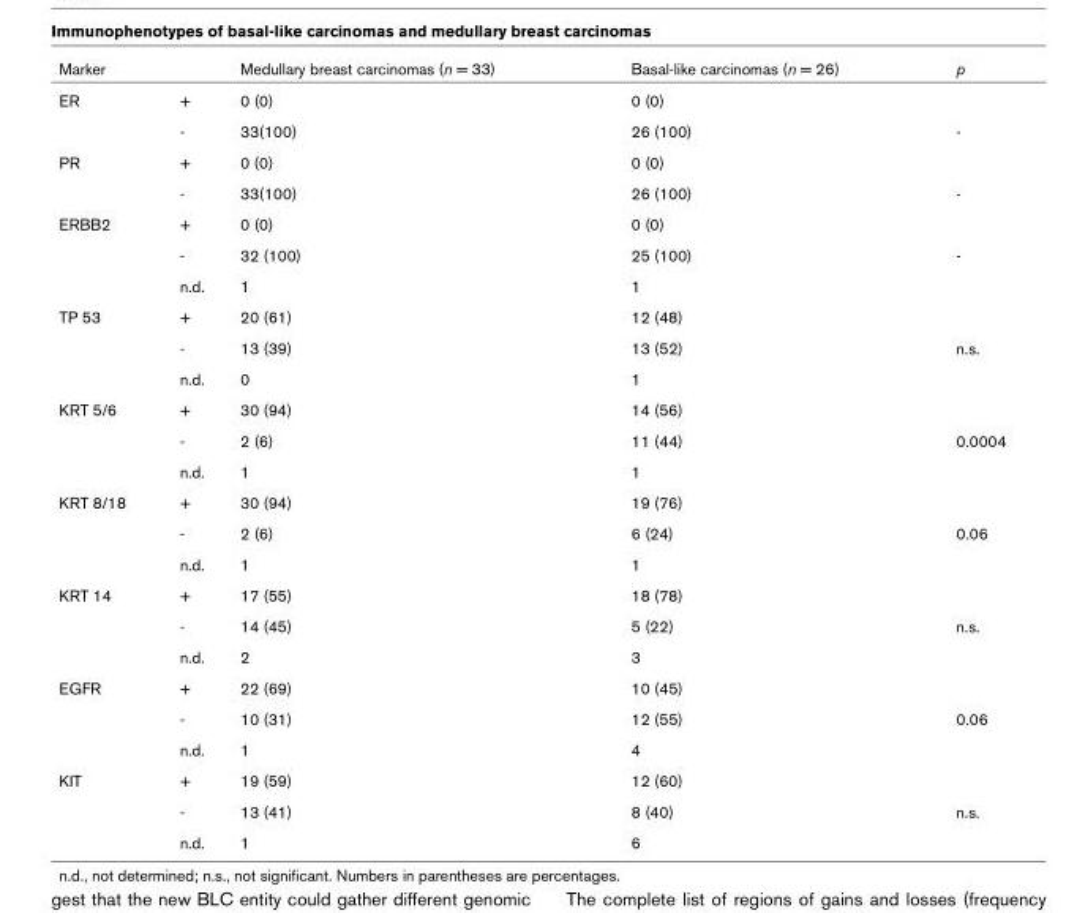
<table><thead><tr><td>Marker</td><td></td><td>Medullary breast carcinomas (n = 33)</td><td>Basal-like carcinomas (n = 26)</td><td>p</td></tr></thead><tbody><tr><td rowspan="2">ER</td><td>+</td><td>0 (0)</td><td>0 (0)</td><td></td></tr><tr><td>-</td><td>33(100)</td><td>26 (100)</td><td>-</td></tr><tr><td rowspan="2">PR</td><td>+</td><td>0 (0)</td><td>0 (0)</td><td></td></tr><tr><td>-</td><td>33(100)</td><td>26 (100)</td><td>-</td></tr><tr><td rowspan="3">ERBB2</td><td>+</td><td>0 (0)</td><td>0 (0)</td><td></td></tr><tr><td>-</td><td>32 (100)</td><td>25 (100)</td><td>-</td></tr><tr><td>n.d.</td><td>1</td><td>1</td><td></td></tr><tr><td rowspan="3">TP 53</td><td>+</td><td>20 (61)</td><td>12 (48)</td><td></td></tr><tr><td>-</td><td>13 (39)</td><td>13 (52)</td><td>n.s.</td></tr><tr><td>n.d.</td><td>0</td><td>1</td><td></td></tr><tr><td rowspan="3">KRT 5/6</td><td>+</td><td>30 (94)</td><td>14 (56)</td><td></td></tr><tr><td>-</td><td>2 (6)</td><td>11 (44)</td><td>0.0004</td></tr><tr><td>n.d.</td><td>1</td><td>1</td><td></td></tr><tr><td rowspan="3">KRT 8/18</td><td>+</td><td>30 (94)</td><td>19 (76)</td><td></td></tr><tr><td>-</td><td>2 (6)</td><td>6 (24)</td><td>0.06</td></tr><tr><td>n.d.</td><td>1</td><td>1</td><td></td></tr><tr><td rowspan="3">KRT 14</td><td>+</td><td>17 (55)</td><td>18 (78)</td><td></td></tr><tr><td>-</td><td>14 (45)</td><td>5 (22)</td><td>n.s.</td></tr><tr><td>n.d.</td><td>2</td><td>3</td><td></td></tr><tr><td rowspan="3">EGFR</td><td>+</td><td>22 (69)</td><td>10 (45)</td><td></td></tr><tr><td>-</td><td>10 (31)</td><td>12 (55)</td><td>0.06</td></tr><tr><td>n.d.</td><td>1</td><td>4</td><td></td></tr><tr><td rowspan="3">KIT</td><td>+</td><td>19 (59)</td><td>12 (60)</td><td></td></tr><tr><td>-</td><td>13 (41)</td><td>8 (40)</td><td>n.s.</td></tr><tr><td>n.d.</td><td>1</td><td>6</td><td></td></tr></tbody></table>